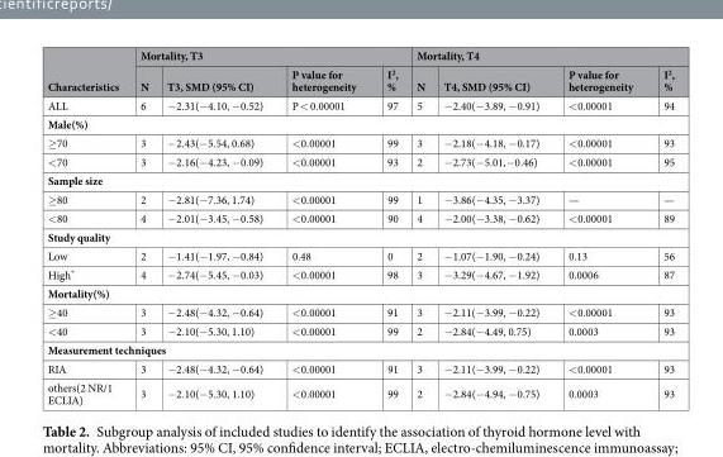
<table><thead><tr><td rowspan="2">Characteristics</td><td colspan="4">Mortality, T3</td><td colspan="4">Mortality, T4</td></tr><tr><td>N</td><td>T3, SMD (95% CI)</td><td>P value for heterogeneity</td><td>I<sup>2</sup>, %</td><td>N</td><td>T4, SMD (95% CI)</td><td>P value for heterogeneity</td><td>I<sup>2</sup>, %</td></tr></thead><tbody><tr><td>ALL</td><td>6</td><td>−2.31(−4.10, −0.52)</td><td>P &lt; 0.00001</td><td>97</td><td>5</td><td>−2.40(−3.89, −0.91)</td><td>&lt;0.00001</td><td>94</td></tr><tr><td colspan="9">Male(%)</td></tr><tr><td>≥70</td><td>3</td><td>−2.43(−5.54, 0.68)</td><td>&lt;0.00001</td><td>99</td><td>3</td><td>−2.18(−4.18, −0.17)</td><td>&lt;0.00001</td><td>93</td></tr><tr><td>&lt;70</td><td>3</td><td>−2.16(−4.23, −0.09)</td><td>&lt;0.00001</td><td>93</td><td>2</td><td>−2.73(−5.01,−0.46)</td><td>&lt;0.00001</td><td>95</td></tr><tr><td colspan="9">Sample size</td></tr><tr><td>≥80</td><td>2</td><td>−2.81(−7.36, 1.74)</td><td>&lt;0.00001</td><td>99</td><td>1</td><td>−3.86(−4.35, −3.37)</td><td>—</td><td>—</td></tr><tr><td>&lt;80</td><td>4</td><td>−2.01(−3.45, −0.58)</td><td>&lt;0.00001</td><td>90</td><td>4</td><td>−2.00(−3.38, −0.62)</td><td>&lt;0.00001</td><td>89</td></tr><tr><td colspan="9">Study quality</td></tr><tr><td>Low</td><td>2</td><td>−1.41(−1.97, −0.84)</td><td>0.48</td><td>0</td><td>2</td><td>−1.07(−1.90, −0.24)</td><td>0.13</td><td>56</td></tr><tr><td>High*</td><td>4</td><td>−2.74(−5.45, −0.03)</td><td>&lt;0.00001</td><td>98</td><td>3</td><td>−3.29(−4.67, −1.92)</td><td>0.0006</td><td>87</td></tr><tr><td colspan="9">Mortality(%)</td></tr><tr><td>≥40</td><td>3</td><td>−2.48(−4.32, −0.64)</td><td>&lt;0.00001</td><td>91</td><td>3</td><td>−2.11(−3.99, −0.22)</td><td>&lt;0.00001</td><td>93</td></tr><tr><td>&lt;40</td><td>3</td><td>−2.10(−5.30, 1.10)</td><td>&lt;0.00001</td><td>99</td><td>2</td><td>−2.84(−4.49, 0.75)</td><td>0.0003</td><td>93</td></tr><tr><td colspan="9">Measurement techniques</td></tr><tr><td>RIA</td><td>3</td><td>−2.48(−4.32, −0.64)</td><td>&lt;0.00001</td><td>91</td><td>3</td><td>−2.11(−3.99, −0.22)</td><td>&lt;0.00001</td><td>93</td></tr><tr><td>others(2 NR/1 ECLIA)</td><td>3</td><td>−2.10(−5.30, 1.10)</td><td>&lt;0.00001</td><td>99</td><td>2</td><td>−2.84(−4.94, −0.75)</td><td>0.0003</td><td>93</td></tr></tbody></table>